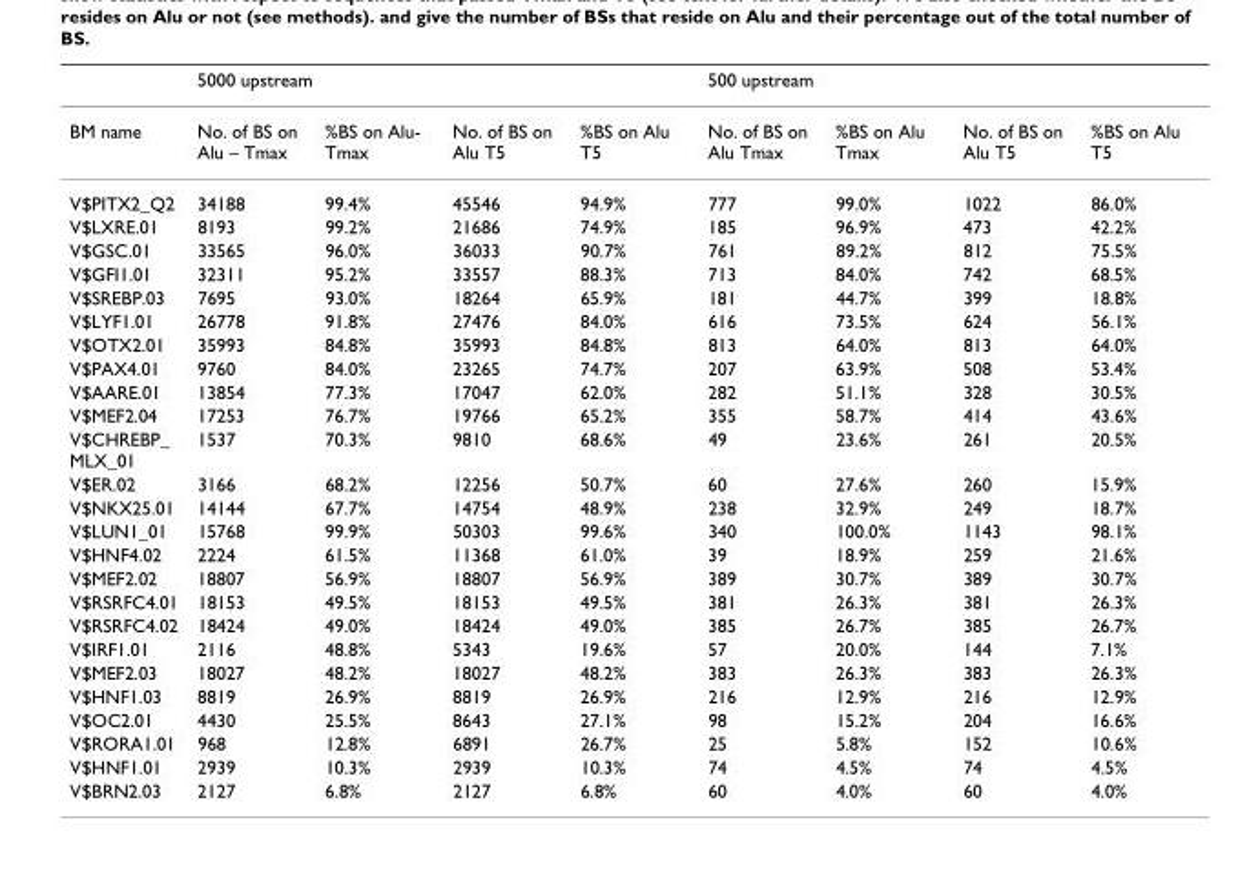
<table><thead><tr><td rowspan="2">BM name</td><td colspan="4">5000 upstream</td><td colspan="4">500 upstream</td></tr><tr><td>No. of BS on Alu – Tmax</td><td>%BS on Alu- Tmax</td><td>No. of BS on Alu T5</td><td>%BS on Alu T5</td><td>No. of BS on Alu Tmax</td><td>%BS on Alu Tmax</td><td>No. of BS on Alu T5</td><td>%BS on Alu T5</td></tr></thead><tbody><tr><td>V$PITX2_Q2</td><td>34188</td><td>99.4%</td><td>45546</td><td>94.9%</td><td>777</td><td>99.0%</td><td>1022</td><td>86.0%</td></tr><tr><td>V$LXRE.01</td><td>8193</td><td>99.2%</td><td>21686</td><td>74.9%</td><td>185</td><td>96.9%</td><td>473</td><td>42.2%</td></tr><tr><td>V$GSC.01</td><td>33565</td><td>96.0%</td><td>36033</td><td>90.7%</td><td>761</td><td>89.2%</td><td>812</td><td>75.5%</td></tr><tr><td>V$GFI1.01</td><td>32311</td><td>95.2%</td><td>33557</td><td>88.3%</td><td>713</td><td>84.0%</td><td>742</td><td>68.5%</td></tr><tr><td>V$SREBP.03</td><td>7695</td><td>93.0%</td><td>18264</td><td>65.9%</td><td>181</td><td>44.7%</td><td>399</td><td>18.8%</td></tr><tr><td>V$LYF1.01</td><td>26778</td><td>91.8%</td><td>27476</td><td>84.0%</td><td>616</td><td>73.5%</td><td>624</td><td>56.1%</td></tr><tr><td>V$OTX2.01</td><td>35993</td><td>84.8%</td><td>35993</td><td>84.8%</td><td>813</td><td>64.0%</td><td>813</td><td>64.0%</td></tr><tr><td>V$PAX4.01</td><td>9760</td><td>84.0%</td><td>23265</td><td>74.7%</td><td>207</td><td>63.9%</td><td>508</td><td>53.4%</td></tr><tr><td>V$AARE.01</td><td>13854</td><td>77.3%</td><td>17047</td><td>62.0%</td><td>282</td><td>51.1%</td><td>328</td><td>30.5%</td></tr><tr><td>V$MEF2.04</td><td>17253</td><td>76.7%</td><td>19766</td><td>65.2%</td><td>355</td><td>58.7%</td><td>414</td><td>43.6%</td></tr><tr><td>V$CHREBP_ MLX_01</td><td>1537</td><td>70.3%</td><td>9810</td><td>68.6%</td><td>49</td><td>23.6%</td><td>261</td><td>20.5%</td></tr><tr><td>V$ER.02</td><td>3166</td><td>68.2%</td><td>12256</td><td>50.7%</td><td>60</td><td>27.6%</td><td>260</td><td>15.9%</td></tr><tr><td>V$NKX25.01</td><td>14144</td><td>67.7%</td><td>14754</td><td>48.9%</td><td>238</td><td>32.9%</td><td>249</td><td>18.7%</td></tr><tr><td>V$LUN1_01</td><td>15768</td><td>99.9%</td><td>50303</td><td>99.6%</td><td>340</td><td>100.0%</td><td>1143</td><td>98.1%</td></tr><tr><td>V$HNF4.02</td><td>2224</td><td>61.5%</td><td>11368</td><td>61.0%</td><td>39</td><td>18.9%</td><td>259</td><td>21.6%</td></tr><tr><td>V$MEF2.02</td><td>18807</td><td>56.9%</td><td>18807</td><td>56.9%</td><td>389</td><td>30.7%</td><td>389</td><td>30.7%</td></tr><tr><td>V$RSRFC4.01</td><td>18153</td><td>49.5%</td><td>18153</td><td>49.5%</td><td>381</td><td>26.3%</td><td>381</td><td>26.3%</td></tr><tr><td>V$RSRFC4.02</td><td>18424</td><td>49.0%</td><td>18424</td><td>49.0%</td><td>385</td><td>26.7%</td><td>385</td><td>26.7%</td></tr><tr><td>V$IRF1.01</td><td>2116</td><td>48.8%</td><td>5343</td><td>19.6%</td><td>57</td><td>20.0%</td><td>144</td><td>7.1%</td></tr><tr><td>V$MEF2.03</td><td>18027</td><td>48.2%</td><td>18027</td><td>48.2%</td><td>383</td><td>26.3%</td><td>383</td><td>26.3%</td></tr><tr><td>V$HNF1.03</td><td>8819</td><td>26.9%</td><td>8819</td><td>26.9%</td><td>216</td><td>12.9%</td><td>216</td><td>12.9%</td></tr><tr><td>V$OC2.01</td><td>4430</td><td>25.5%</td><td>8643</td><td>27.1%</td><td>98</td><td>15.2%</td><td>204</td><td>16.6%</td></tr><tr><td>V$RORA1.01</td><td>968</td><td>12.8%</td><td>6891</td><td>26.7%</td><td>25</td><td>5.8%</td><td>152</td><td>10.6%</td></tr><tr><td>V$HNF1.01</td><td>2939</td><td>10.3%</td><td>2939</td><td>10.3%</td><td>74</td><td>4.5%</td><td>74</td><td>4.5%</td></tr><tr><td>V$BRN2.03</td><td>2127</td><td>6.8%</td><td>2127</td><td>6.8%</td><td>60</td><td>4.0%</td><td>60</td><td>4.0%</td></tr></tbody></table>